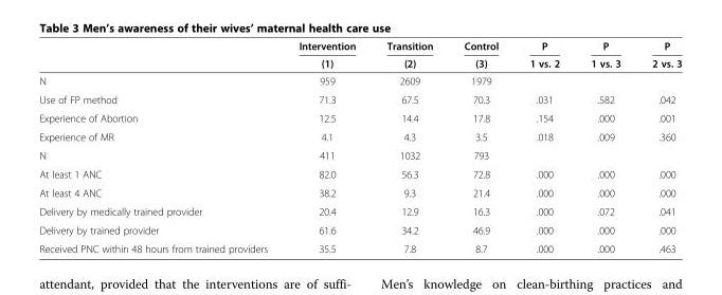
<table><thead><tr><td rowspan="2"></td><td rowspan="2">Intervention (1)</td><td rowspan="2">Transition (2)</td><td rowspan="2">Control (3)</td><td rowspan="2">P 1 vs. 2</td><td rowspan="2">P 1 vs. 3</td><td rowspan="2">P 2 vs. 3</td></tr><tr></tr></thead><tbody><tr><td>N</td><td>959</td><td>2609</td><td>1979</td><td></td><td></td><td></td></tr><tr><td>Use of FP method</td><td>71.3</td><td>67.5</td><td>70.3</td><td>.031</td><td>.582</td><td>.042</td></tr><tr><td>Experience of Abortion</td><td>12.5</td><td>14.4</td><td>17.8</td><td>.154</td><td>.000</td><td>.001</td></tr><tr><td>Experience of MR</td><td>4.1</td><td>4.3</td><td>3.5</td><td>.018</td><td>.009</td><td>.360</td></tr><tr><td>N</td><td>411</td><td>1032</td><td>793</td><td></td><td></td><td></td></tr><tr><td>At least 1 ANC</td><td>82.0</td><td>56.3</td><td>72.8</td><td>.000</td><td>.000</td><td>.000</td></tr><tr><td>At least 4 ANC</td><td>38.2</td><td>9.3</td><td>21.4</td><td>.000</td><td>.000</td><td>.000</td></tr><tr><td>Delivery by medically trained provider</td><td>20.4</td><td>12.9</td><td>16.3</td><td>.000</td><td>.072</td><td>.041</td></tr><tr><td>Delivery by trained provider</td><td>61.6</td><td>34.2</td><td>46.9</td><td>.000</td><td>.000</td><td>.000</td></tr><tr><td>Received PNC within 48 hours from trained providers</td><td>35.5</td><td>7.8</td><td>8.7</td><td>.000</td><td>.000</td><td>.463</td></tr></tbody></table>